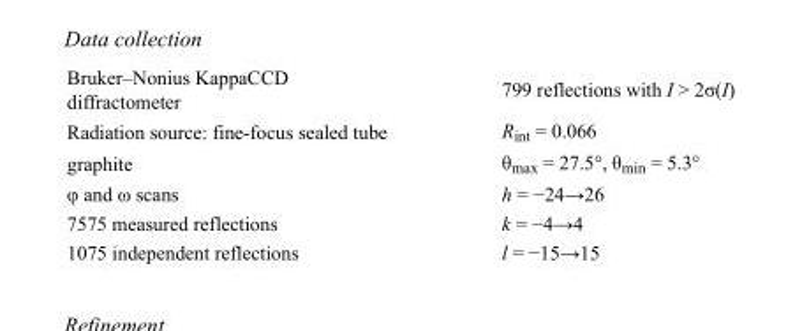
<table><tbody><tr><td>Bruker–Nonius KappaCCD diffractometer</td><td>799 reflections with I &gt; 2σ(I)</td></tr><tr><td>Radiation source: fine-focus sealed tube</td><td>R<sub>int</sub> = 0.066</td></tr><tr><td>graphite</td><td>θ<sub>max</sub> = 27.5°, θ<sub>min</sub> = 5.3°</td></tr><tr><td>φ and ω scans</td><td>h = −24→26</td></tr><tr><td>7575 measured reflections</td><td>k = −4→4</td></tr><tr><td>1075 independent reflections</td><td>l = −15→15</td></tr></tbody></table>